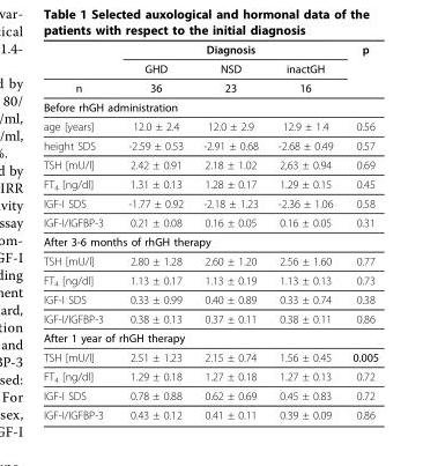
<table><thead><tr><td rowspan="3">n</td><td colspan="3">Diagnosis</td><td rowspan="3">p</td></tr><tr><td rowspan="2">GHD 36</td><td rowspan="2">NSD 23</td><td rowspan="2">inactGH 16</td></tr><tr></tr></thead><tbody><tr><td colspan="5">Before rhGH administration</td></tr><tr><td>age [years]</td><td>12.0 ± 2.4</td><td>12.0 ± 2.9</td><td>12.9 ± 1.4</td><td>0.56</td></tr><tr><td>height SDS</td><td>-2.59 ± 0.53</td><td>-2.91 ± 0.68</td><td>-2.68 ± 0.49</td><td>0.57</td></tr><tr><td>TSH [mU/l]</td><td>2.42 ± 0.91</td><td>2.18 ± 1.02</td><td>2,63 ± 0.94</td><td>0.69</td></tr><tr><td>FT<sub>4</sub> [ng/dl]</td><td>1.31 ± 0.13</td><td>1.28 ± 0.17</td><td>1.29 ± 0.15</td><td>0.45</td></tr><tr><td>IGF-I SDS</td><td>-1.77 ± 0.92</td><td>-2.18 ± 1.23</td><td>-2.36 ± 1.06</td><td>0.58</td></tr><tr><td>IGF-I/IGFBP-3</td><td>0.21 ± 0.08</td><td>0.16 ± 0.05</td><td>0.16 ± 0.05</td><td>0.31</td></tr><tr><td colspan="5">After 3-6 months of rhGH therapy</td></tr><tr><td>TSH [mU/l]</td><td>2.80 ± 1.28</td><td>2.60 ± 1.20</td><td>2.56 ± 1.60</td><td>0.77</td></tr><tr><td>FT<sub>4</sub> [ng/dl]</td><td>1.13 ± 0.17</td><td>1.13 ± 0.19</td><td>1.13 ± 0.13</td><td>0.73</td></tr><tr><td>IGF-I SDS</td><td>0.33 ± 0.99</td><td>0.40 ± 0.89</td><td>0.33 ± 0.74</td><td>0.38</td></tr><tr><td>IGF-I/IGFBP-3</td><td>0.38 ± 0.13</td><td>0.37 ± 0.11</td><td>0.38 ± 0.11</td><td>0.86</td></tr><tr><td colspan="5">After 1 year of rhGH therapy</td></tr><tr><td>TSH [mU/l]</td><td>2.51 ± 1.23</td><td>2.15 ± 0.74</td><td>1.56 ± 0.45</td><td>0.005</td></tr><tr><td>FT<sub>4</sub> [ng/dl]</td><td>1.29 ± 0.18</td><td>1.27 ± 0.18</td><td>1.27 ± 0.13</td><td>0.72</td></tr><tr><td>IGF-I SDS</td><td>0.78 ± 0.88</td><td>0.62 ± 0.69</td><td>0.45 ± 0.83</td><td>0.72</td></tr><tr><td>IGF-I/IGFBP-3</td><td>0.43 ± 0.12</td><td>0.41 ± 0.11</td><td>0.39 ± 0.09</td><td>0.86</td></tr></tbody></table>